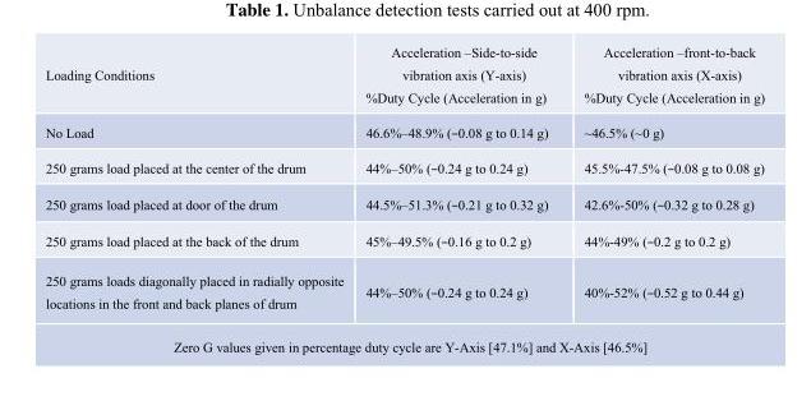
<table><tbody><tr><td>Loading Conditions</td><td>Acceleration –Side-to-side vibration axis (Y-axis) %Duty Cycle (Acceleration in g)</td><td>Acceleration –front-to-back vibration axis (X-axis) %Duty Cycle (Acceleration in g)</td></tr><tr><td>No Load</td><td>46.6%–48.9% (−0.08 g to 0.14 g)</td><td>~46.5% (~0 g)</td></tr><tr><td>250 grams load placed at the center of the drum</td><td>44%–50% (−0.24 g to 0.24 g)</td><td>45.5%-47.5% (−0.08 g to 0.08 g)</td></tr><tr><td>250 grams load placed at door of the drum</td><td>44.5%–51.3% (−0.21 g to 0.32 g)</td><td>42.6%-50% (−0.32 g to 0.28 g)</td></tr><tr><td>250 grams load placed at the back of the drum</td><td>45%–49.5% (−0.16 g to 0.2 g)</td><td>44%-49% (−0.2 g to 0.2 g)</td></tr><tr><td>250 grams loads diagonally placed in radially opposite locations in the front and back planes of drum</td><td>44%–50% (−0.24 g to 0.24 g)</td><td>40%-52% (−0.52 g to 0.44 g)</td></tr><tr><td colspan="3">Zero G values given in percentage duty cycle are Y-Axis [47.1%] and X-Axis [46.5%]</td></tr></tbody></table>